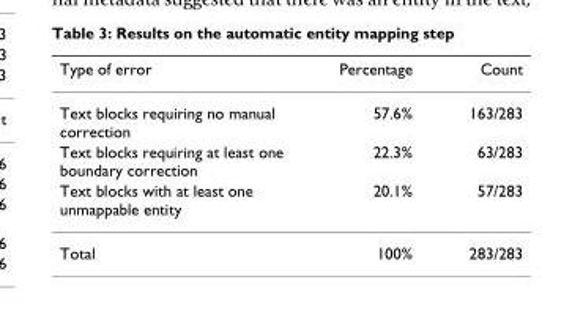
<table><thead><tr><td>Type of error</td><td>Percentage</td><td>Count</td></tr></thead><tbody><tr><td>Text blocks requiring no manual correction</td><td>57.6%</td><td>163/283</td></tr><tr><td>Text blocks requiring at least one boundary correction</td><td>22.3%</td><td>63/283</td></tr><tr><td>Text blocks with at least one unmappable entity</td><td>20.1%</td><td>57/283</td></tr><tr><td>Total</td><td>100%</td><td>283/283</td></tr></tbody></table>